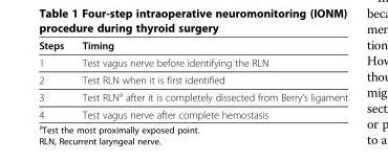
<table><thead><tr><td>Steps</td><td>Timing</td></tr></thead><tbody><tr><td>1</td><td>Test vagus nerve before identifying the RLN</td></tr><tr><td>2</td><td>Test RLN when it is first identified</td></tr><tr><td>3</td><td>Test RLN<sup>a</sup> after it is completely dissected from Berry’s ligament</td></tr><tr><td>4</td><td>Test vagus nerve after complete hemostasis</td></tr></tbody></table>